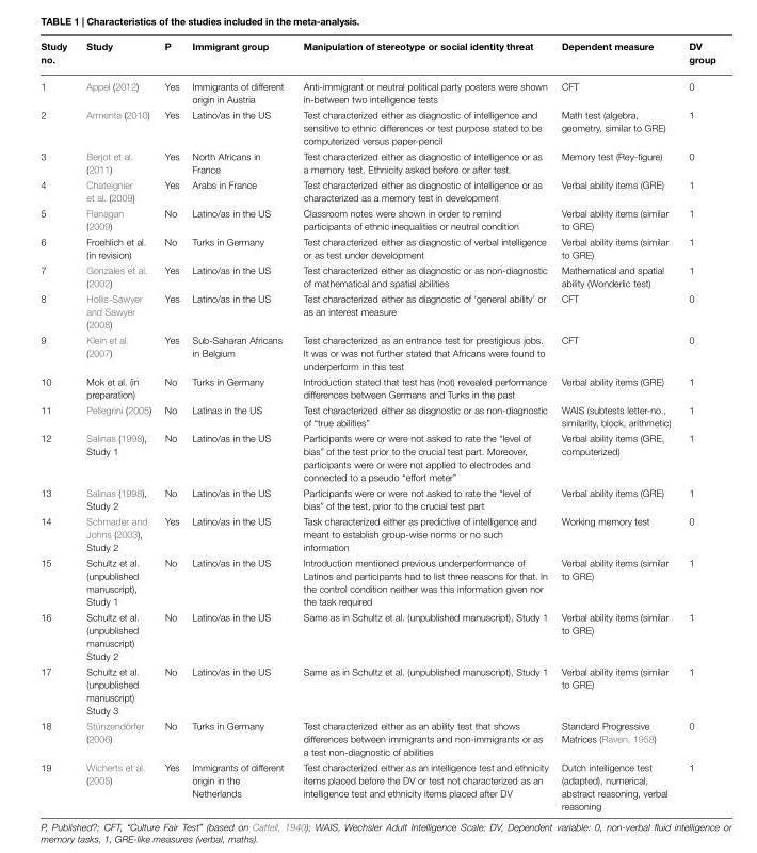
<table><thead><tr><td>Study no.</td><td>Study</td><td>P</td><td>Immigrant group</td><td>Manipulation of stereotype or social identity threat</td><td>Dependent measure</td><td>DV group</td></tr></thead><tbody><tr><td>1</td><td>Appel (2012)</td><td>Yes</td><td>Immigrants of different origin in Austria</td><td>Anti-immigrant or neutral political party posters were shown in-between two intelligence tests</td><td>CFT</td><td>0</td></tr><tr><td>2</td><td>Armenta (2010)</td><td>Yes</td><td>Latino/as in the US</td><td>Test characterized either as diagnostic of intelligence and sensitive to ethnic differences or test purpose stated to be computerized versus paper-pencil</td><td>Math test (algebra, geometry, similar to GRE)</td><td>1</td></tr><tr><td>3</td><td>Berjot et al. (2011)</td><td>Yes</td><td>North Africans in France</td><td>Test characterized either as diagnostic of intelligence or as a memory test. Ethnicity asked before or after test.</td><td>Memory test (Rey-figure)</td><td>0</td></tr><tr><td>4</td><td>Chateignier et al. (2009)</td><td>Yes</td><td>Arabs in France</td><td>Test characterized either as diagnostic of intelligence or as characterized as a memory test in development</td><td>Verbal ability items (GRE)</td><td>1</td></tr><tr><td>5</td><td>Flanagan (2009)</td><td>No</td><td>Latino/as in the US</td><td>Classroom notes were shown in order to remind participants of ethnic inequalities or neutral condition</td><td>Verbal ability items (similar to GRE)</td><td>1</td></tr><tr><td>6</td><td>Froehlich et al. (in revision)</td><td>No</td><td>Turks in Germany</td><td>Test characterized either as diagnostic of verbal intelligence or as test under development</td><td>Verbal ability items (similar to GRE)</td><td>1</td></tr><tr><td>7</td><td>Gonzales et al. (2002)</td><td>Yes</td><td>Latino/as in the US</td><td>Test characterized either as diagnostic or as non-diagnostic of mathematical and spatial abilities</td><td>Mathematical and spatial ability (Wonderlic test)</td><td>1</td></tr><tr><td>8</td><td>Hollis-Sawyer and Sawyer (2008)</td><td>Yes</td><td>Latino/as in the US</td><td>Test characterized either as diagnostic of ‘general ability’ or as an interest measure</td><td>CFT</td><td>0</td></tr><tr><td>9</td><td>Klein et al. (2007)</td><td>Yes</td><td>Sub-Saharan Africans in Belgium</td><td>Test characterized as an entrance test for prestigious jobs. It was or was not further stated that Africans were found to underperform in this test</td><td>CFT</td><td>0</td></tr><tr><td>10</td><td>Mok et al. (in preparation)</td><td>No</td><td>Turks in Germany</td><td>Introduction stated that test has (not) revealed performance differences between Germans and Turks in the past</td><td>Verbal ability items (GRE)</td><td>1</td></tr><tr><td>11</td><td>Pellegrini (2005)</td><td>No</td><td>Latinas in the US</td><td>Test characterized either as diagnostic or as non-diagnostic of “true abilities”</td><td>WAIS (subtests letter-no., similarity, block, arithmetic)</td><td>1</td></tr><tr><td>12</td><td>Salinas (1998), Study 1</td><td>No</td><td>Latino/as in the US</td><td>Participants were or were not asked to rate the “level of bias” of the test prior to the crucial test part. Moreover, participants were or were not applied to electrodes and connected to a pseudo “effort meter”</td><td>Verbal ability items (GRE, computerized)</td><td>1</td></tr><tr><td>13</td><td>Salinas (1998), Study 2</td><td>No</td><td>Latino/as in the US</td><td>Participants were or were not asked to rate the “level of bias” of the test, prior to the crucial test part</td><td>Verbal ability items (GRE)</td><td>1</td></tr><tr><td>14</td><td>Schmader and Johns (2003), Study 2</td><td>Yes</td><td>Latino/as in the US</td><td>Task characterized either as predictive of intelligence and meant to establish group-wise norms or no such information</td><td>Working memory test</td><td>0</td></tr><tr><td>15</td><td>Schultz et al. (unpublished manuscript), Study 1</td><td>No</td><td>Latino/as in the US</td><td>Introduction mentioned previous underperformance of Latinos and participants had to list three reasons for that. In the control condition neither was this information given nor the task required</td><td>Verbal ability items (similar to GRE)</td><td>1</td></tr><tr><td>16</td><td>Schultz et al. (unpublished manuscript) Study 2</td><td>No</td><td>Latino/as in the US</td><td>Same as in Schultz et al. (unpublished manuscript), Study 1</td><td>Verbal ability items (similar to GRE)</td><td>1</td></tr><tr><td>17</td><td>Schultz et al. (unpublished manuscript) Study 3</td><td>No</td><td>Latino/as in the US</td><td>Same as in Schultz et al. (unpublished manuscript), Study 1</td><td>Verbal ability items (similar to GRE)</td><td>1</td></tr><tr><td>18</td><td>Stünzendörfer (2006)</td><td>No</td><td>Turks in Germany</td><td>Test characterized either as an ability test that shows differences between immigrants and non-immigrants or as a test non-diagnostic of abilities</td><td>Standard Progressive Matrices (Raven, 1958)</td><td>0</td></tr><tr><td>19</td><td>Wicherts et al. (2005)</td><td>Yes</td><td>Immigrants of different origin in the Netherlands</td><td>Test characterized either as an intelligence test and ethnicity items placed before the DV or test not characterized as an intelligence test and ethnicity items placed after DV</td><td>Dutch intelligence test (adapted), numerical, abstract reasoning, verbal reasoning</td><td>1</td></tr></tbody></table>